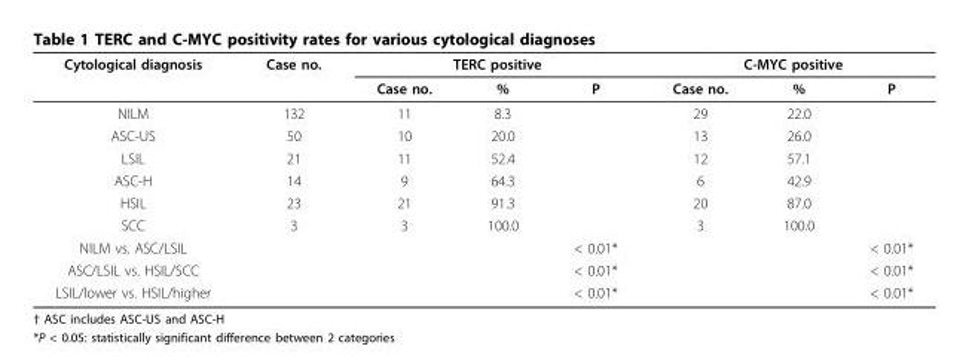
<table><thead><tr><td rowspan="2">Cytological diagnosis</td><td rowspan="2">Case no.</td><td colspan="3">TERC positive</td><td colspan="3">C-MYC positive</td></tr><tr><td>Case no.</td><td>%</td><td>P</td><td>Case no.</td><td>%</td><td>P</td></tr></thead><tbody><tr><td>NILM</td><td>132</td><td>11</td><td>8.3</td><td></td><td>29</td><td>22.0</td><td></td></tr><tr><td>ASC-US</td><td>50</td><td>10</td><td>20.0</td><td></td><td>13</td><td>26.0</td><td></td></tr><tr><td>LSIL</td><td>21</td><td>11</td><td>52.4</td><td></td><td>12</td><td>57.1</td><td></td></tr><tr><td>ASC-H</td><td>14</td><td>9</td><td>64.3</td><td></td><td>6</td><td>42.9</td><td></td></tr><tr><td>HSIL</td><td>23</td><td>21</td><td>91.3</td><td></td><td>20</td><td>87.0</td><td></td></tr><tr><td>SCC</td><td>3</td><td>3</td><td>100.0</td><td></td><td>3</td><td>100.0</td><td></td></tr><tr><td>NILM vs. ASC/LSIL</td><td></td><td></td><td></td><td>&lt; 0.01*</td><td></td><td></td><td>&lt; 0.01*</td></tr><tr><td>ASC/LSIL vs. HSIL/SCC</td><td></td><td></td><td></td><td>&lt; 0.01*</td><td></td><td></td><td>&lt; 0.01*</td></tr><tr><td>LSIL/lower vs. HSIL/higher</td><td></td><td></td><td></td><td>&lt; 0.01*</td><td></td><td></td><td>&lt; 0.01*</td></tr></tbody></table>